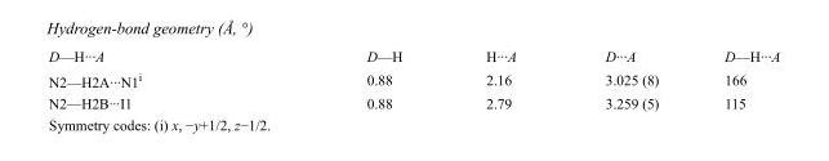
<table><tbody><tr><td>D—H···A</td><td>D—H</td><td>H···A</td><td>D···A</td><td>D—H···A</td></tr><tr><td>N2—H2A···N1<sup>i</sup></td><td>0.88</td><td>2.16</td><td>3.025 (8)</td><td>166</td></tr><tr><td>N2—H2B···I1</td><td>0.88</td><td>2.79</td><td>3.259 (5)</td><td>115</td></tr></tbody></table>